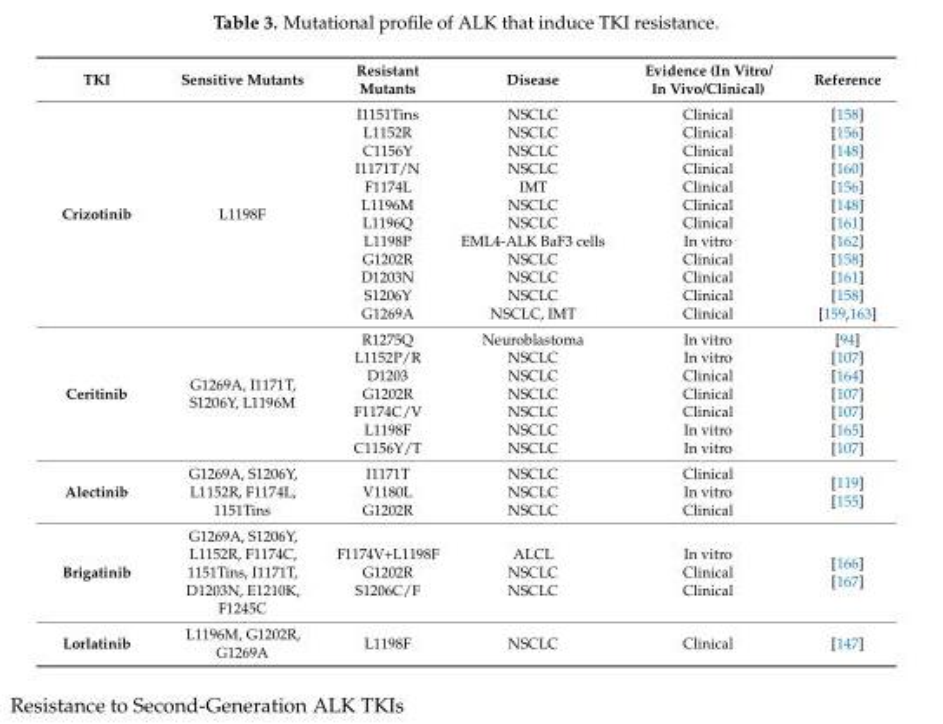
<table><thead><tr><td>TKI</td><td>Sensitive Mutants</td><td>Resistant Mutants</td><td>Disease</td><td>Evidence (In Vitro/ In Vivo/Clinical)</td><td>Reference</td></tr></thead><tbody><tr><td>Crizotinib</td><td>L1198F</td><td>I1151Tins L1152R C1156Y I1171T/N F1174L L1196M L1196Q L1198P G1202R D1203N S1206Y G1269A</td><td>NSCLC NSCLC NSCLC NSCLC IMT NSCLC NSCLC EML4-ALK BaF3 cells NSCLC NSCLC NSCLC NSCLC, IMT</td><td>Clinical Clinical Clinical Clinical Clinical Clinical Clinical In vitro Clinical Clinical Clinical Clinical</td><td>[158] [156] [148] [160] [156] [148] [161] [162] [158] [161] [158] [159,163]</td></tr><tr><td>Ceritinib</td><td>G1269A, I1171T, S1206Y, L1196M</td><td>R1275Q L1152P/R D1203 G1202R F1174C/V L1198F C1156Y/T</td><td>Neuroblastoma NSCLC NSCLC NSCLC NSCLC NSCLC NSCLC</td><td>In vitro In vitro Clinical Clinical Clinical In vitro In vitro</td><td>[94] [107] [164] [107] [107] [165] [107]</td></tr><tr><td>Alectinib</td><td>G1269A, S1206Y, L1152R, F1174L, 1151Tins</td><td>I1171T V1180L G1202R</td><td>NSCLC NSCLC NSCLC</td><td>Clinical In vitro Clinical</td><td>[119] [155]</td></tr><tr><td>Brigatinib</td><td>G1269A, S1206Y, L1152R, F1174C, 1151Tins, I1171T, D1203N, E1210K, F1245C</td><td>F1174V+L1198F G1202R S1206C/F</td><td>ALCL NSCLC NSCLC</td><td>In vitro Clinical Clinical</td><td>[166] [167]</td></tr><tr><td>Lorlatinib</td><td>L1196M, G1202R, G1269A</td><td>L1198F</td><td>NSCLC</td><td>Clinical</td><td>[147]</td></tr></tbody></table>